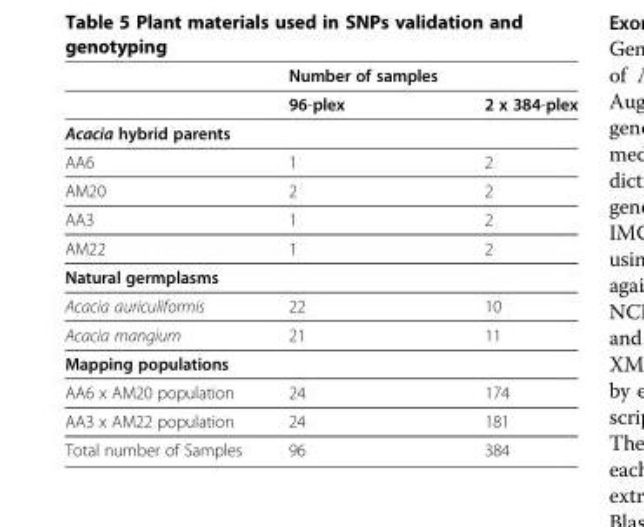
<table><thead><tr><td></td><td>Number of samples</td><td></td></tr></thead><tbody><tr><td></td><td>96-plex</td><td>2 x 384-plex</td></tr><tr><td colspan="3">Acacia hybrid parents</td></tr><tr><td>AA6</td><td>1</td><td>2</td></tr><tr><td>AM20</td><td>2</td><td>2</td></tr><tr><td>AA3</td><td>1</td><td>2</td></tr><tr><td>AM22</td><td>1</td><td>2</td></tr><tr><td colspan="3">Natural germplasms</td></tr><tr><td>Acacia auriculiformis</td><td>22</td><td>10</td></tr><tr><td>Acacia mangium</td><td>21</td><td>11</td></tr><tr><td colspan="3">Mapping populations</td></tr><tr><td>AA6 x AM20 population</td><td>24</td><td>174</td></tr><tr><td>AA3 x AM22 population</td><td>24</td><td>181</td></tr><tr><td>Total number of Samples</td><td>96</td><td>384</td></tr></tbody></table>